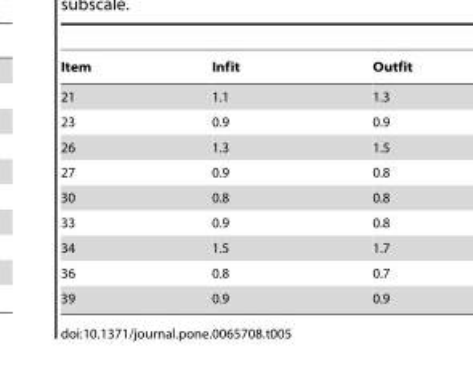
<table><thead><tr><td>Item</td><td>Infit</td><td>Outfit</td></tr></thead><tbody><tr><td>21</td><td>1.1</td><td>1.3</td></tr><tr><td>23</td><td>0.9</td><td>0.9</td></tr><tr><td>26</td><td>1.3</td><td>1.5</td></tr><tr><td>27</td><td>0.9</td><td>0.8</td></tr><tr><td>30</td><td>0.8</td><td>0.8</td></tr><tr><td>33</td><td>0.9</td><td>0.8</td></tr><tr><td>34</td><td>1.5</td><td>1.7</td></tr><tr><td>36</td><td>0.8</td><td>0.7</td></tr><tr><td>39</td><td>0.9</td><td>0.9</td></tr></tbody></table>